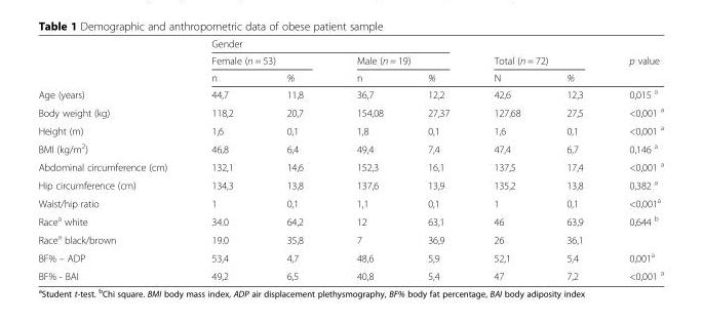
<table><thead><tr><td rowspan="3"></td><td colspan="4">Gender</td><td></td><td></td><td rowspan="3">p value</td></tr><tr><td colspan="2">Female (n = 53)</td><td colspan="2">Male (n = 19)</td><td colspan="2">Total (n = 72)</td></tr><tr><td>n</td><td>%</td><td>n</td><td>%</td><td>N</td><td>%</td></tr></thead><tbody><tr><td>Age (years)</td><td>44,7</td><td>11,8</td><td>36,7</td><td>12,2</td><td>42,6</td><td>12,3</td><td>0,015 <sup>a</sup></td></tr><tr><td>Body weight (kg)</td><td>118,2</td><td>20,7</td><td>154,08</td><td>27,37</td><td>127,68</td><td>27,5</td><td>&lt;0,001 <sup>a</sup></td></tr><tr><td>Height (m)</td><td>1,6</td><td>0,1</td><td>1,8</td><td>0,1</td><td>1,6</td><td>0,1</td><td>&lt;0,001 <sup>a</sup></td></tr><tr><td>BMI (kg/m<sup>2</sup>)</td><td>46,8</td><td>6,4</td><td>49,4</td><td>7,4</td><td>47,4</td><td>6,7</td><td>0,146 <sup>a</sup></td></tr><tr><td>Abdominal circumference (cm)</td><td>132,1</td><td>14,6</td><td>152,3</td><td>16,1</td><td>137,5</td><td>17,4</td><td>&lt;0,001 <sup>a</sup></td></tr><tr><td>Hip circumference (cm)</td><td>134,3</td><td>13,8</td><td>137,6</td><td>13,9</td><td>135,2</td><td>13,8</td><td>0,382 <sup>a</sup></td></tr><tr><td>Waist/hip ratio</td><td>1</td><td>0,1</td><td>1,1</td><td>0,1</td><td>1</td><td>0,1</td><td>&lt;0,001<sup>a</sup></td></tr><tr><td>Race<sup>a</sup> white</td><td>34.0</td><td>64,2</td><td>12</td><td>63,1</td><td>46</td><td>63,9</td><td rowspan="2">0,644 <sup>b</sup></td></tr><tr><td>Race<sup>a</sup> black/brown</td><td>19.0</td><td>35,8</td><td>7</td><td>36,9</td><td>26</td><td>36,1</td></tr><tr><td>BF% – ADP</td><td>53,4</td><td>4,7</td><td>48,6</td><td>5,9</td><td>52,1</td><td>5,4</td><td>0,001<sup>a</sup></td></tr><tr><td>BF% - BAI</td><td>49,2</td><td>6,5</td><td>40,8</td><td>5,4</td><td>47</td><td>7,2</td><td>&lt;0,001 <sup>a</sup></td></tr></tbody></table>